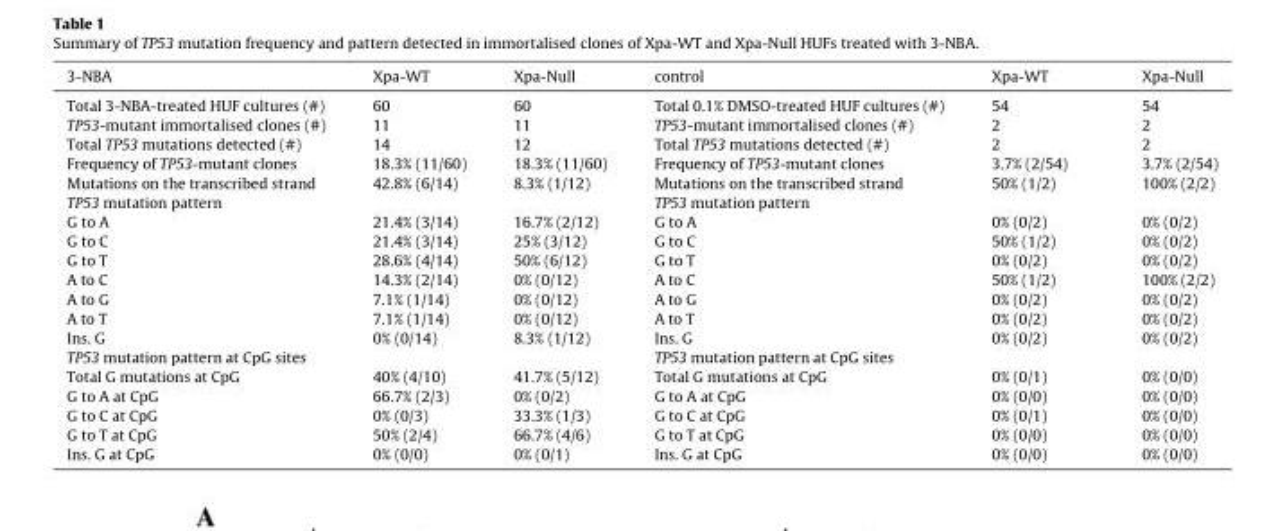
<table><thead><tr><td>3-NBA</td><td>Xpa-WT</td><td>Xpa-Null</td><td>control</td><td>Xpa-WT</td><td>Xpa-Null</td></tr></thead><tbody><tr><td>Total 3-NBA-treated HUF cultures (#)</td><td>60</td><td>60</td><td>Total 0.1% DMSO-treated HUF cultures (#)</td><td>54</td><td>54</td></tr><tr><td>TP53-mutant immortalised clones (#)</td><td>11</td><td>11</td><td>TP53-mutant immortalised clones (#)</td><td>2</td><td>2</td></tr><tr><td>Total TP53 mutations detected (#)</td><td>14</td><td>12</td><td>Total TP53 mutations detected (#)</td><td>2</td><td>2</td></tr><tr><td>Frequency of TP53-mutant clones</td><td>18.3% (11/60)</td><td>18.3% (11/60)</td><td>Frequency of TP53-mutant clones</td><td>3.7% (2/54)</td><td>3.7% (2/54)</td></tr><tr><td>Mutations on the transcribed strand</td><td>42.8% (6/14)</td><td>8.3% (1/12)</td><td>Mutations on the transcribed strand</td><td>50% (1/2)</td><td>100% (2/2)</td></tr><tr><td>TP53 mutation pattern</td><td></td><td></td><td>TP53 mutation pattern</td><td></td><td></td></tr><tr><td>G to A</td><td>21.4% (3/14)</td><td>16.7% (2/12)</td><td>G to A</td><td>0% (0/2)</td><td>0% (0/2)</td></tr><tr><td>G to C</td><td>21.4% (3/14)</td><td>25% (3/12)</td><td>G to C</td><td>50% (1/2)</td><td>0% (0/2)</td></tr><tr><td>G to T</td><td>28.6% (4/14)</td><td>50% (6/12)</td><td>G to T</td><td>0% (0/2)</td><td>0% (0/2)</td></tr><tr><td>A to C</td><td>14.3% (2/14)</td><td>0% (0/12)</td><td>A to C</td><td>50% (1/2)</td><td>100% (2/2)</td></tr><tr><td>A to G</td><td>7.1% (1/14)</td><td>0% (0/12)</td><td>A to G</td><td>0% (0/2)</td><td>0% (0/2)</td></tr><tr><td>A to T</td><td>7.1% (1/14)</td><td>0% (0/12)</td><td>A to T</td><td>0% (0/2)</td><td>0% (0/2)</td></tr><tr><td>Ins. G</td><td>0% (0/14)</td><td>8.3% (1/12)</td><td>Ins. G</td><td>0% (0/2)</td><td>0% (0/2)</td></tr><tr><td>TP53 mutation pattern at CpG sites</td><td></td><td></td><td>TP53 mutation pattern at CpG sites</td><td></td><td></td></tr><tr><td>Total G mutations at CpG</td><td>40% (4/10)</td><td>41.7% (5/12)</td><td>Total G mutations at CpG</td><td>0% (0/1)</td><td>0% (0/0)</td></tr><tr><td>G to A at CpG</td><td>66.7% (2/3)</td><td>0% (0/2)</td><td>G to A at CpG</td><td>0% (0/0)</td><td>0% (0/0)</td></tr><tr><td>G to C at CpG</td><td>0% (0/3)</td><td>33.3% (1/3)</td><td>G to C at CpG</td><td>0% (0/1)</td><td>0% (0/0)</td></tr><tr><td>G to T at CpG</td><td>50% (2/4)</td><td>66.7% (4/6)</td><td>G to T at CpG</td><td>0% (0/0)</td><td>0% (0/0)</td></tr><tr><td>Ins. G at CpG</td><td>0% (0/0)</td><td>0% (0/1)</td><td>Ins. G at CpG</td><td>0% (0/0)</td><td>0% (0/0)</td></tr></tbody></table>